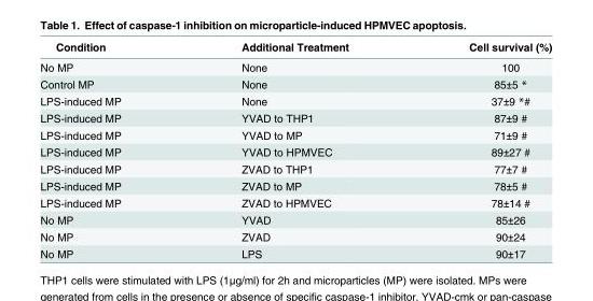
<table><thead><tr><td>Condition</td><td>Additional Treatment</td><td>Cell survival (%)</td></tr></thead><tbody><tr><td>No MP</td><td>None</td><td>100</td></tr><tr><td>Control MP</td><td>None</td><td>85±5 *</td></tr><tr><td>LPS-induced MP</td><td>None</td><td>37±9 *#</td></tr><tr><td>LPS-induced MP</td><td>YVAD to THP1</td><td>87±9 #</td></tr><tr><td>LPS-induced MP</td><td>YVAD to MP</td><td>71±9 #</td></tr><tr><td>LPS-induced MP</td><td>YVAD to HPMVEC</td><td>89±27 #</td></tr><tr><td>LPS-induced MP</td><td>ZVAD to THP1</td><td>77±7 #</td></tr><tr><td>LPS-induced MP</td><td>ZVAD to MP</td><td>78±5 #</td></tr><tr><td>LPS-induced MP</td><td>ZVAD to HPMVEC</td><td>78±14 #</td></tr><tr><td>No MP</td><td>YVAD</td><td>85±26</td></tr><tr><td>No MP</td><td>ZVAD</td><td>90±24</td></tr><tr><td>No MP</td><td>LPS</td><td>90±17</td></tr></tbody></table>